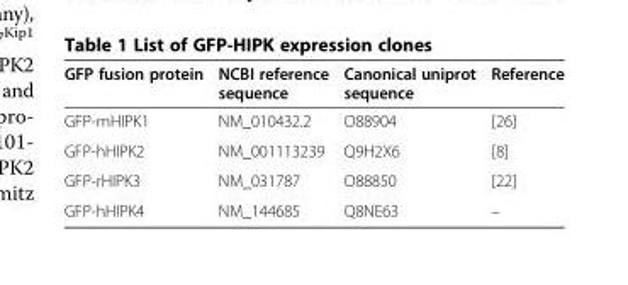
<table><thead><tr><td>GFP fusion protein</td><td>NCBI reference sequence</td><td>Canonical uniprot sequence</td><td>Reference</td></tr></thead><tbody><tr><td>GFP-mHIPK1</td><td>NM_010432.2</td><td>O88904</td><td>[26]</td></tr><tr><td>GFP-hHIPK2</td><td>NM_001113239</td><td>Q9H2X6</td><td>[8]</td></tr><tr><td>GFP-rHIPK3</td><td>NM_031787</td><td>O88850</td><td>[22]</td></tr><tr><td>GFP-hHIPK4</td><td>NM_144685</td><td>Q8NE63</td><td>–</td></tr></tbody></table>